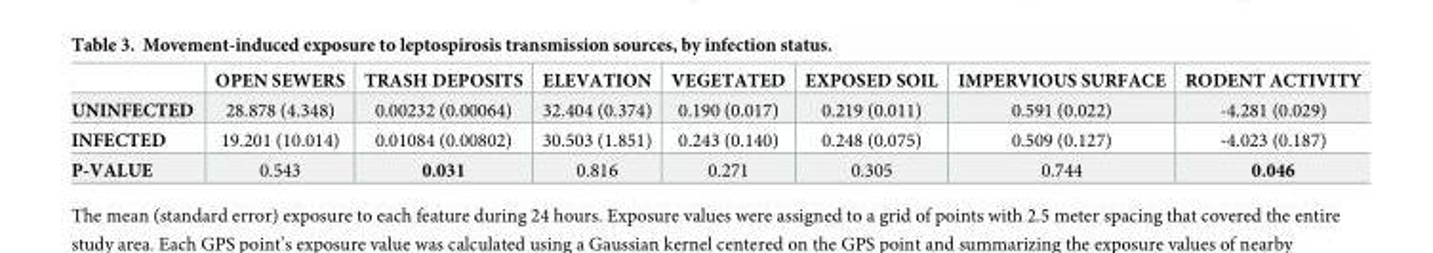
<table><thead><tr><td></td><td>OPEN SEWERS</td><td>TRASH DEPOSITS</td><td>ELEVATION</td><td>VEGETATED</td><td>EXPOSED SOIL</td><td>IMPERVIOUS SURFACE</td><td>RODENT ACTIVITY</td></tr></thead><tbody><tr><td>UNINFECTED</td><td>28.878 (4.348)</td><td>0.00232 (0.00064)</td><td>32.404 (0.374)</td><td>0.190 (0.017)</td><td>0.219 (0.011)</td><td>0.591 (0.022)</td><td>-4.281 (0.029)</td></tr><tr><td>INFECTED</td><td>19.201 (10.014)</td><td>0.01084 (0.00802)</td><td>30.503 (1.851)</td><td>0.243 (0.140)</td><td>0.248 (0.075)</td><td>0.509 (0.127)</td><td>-4.023 (0.187)</td></tr><tr><td>P-VALUE</td><td>0.543</td><td>0.031</td><td>0.816</td><td>0.271</td><td>0.305</td><td>0.744</td><td>0.046</td></tr></tbody></table>